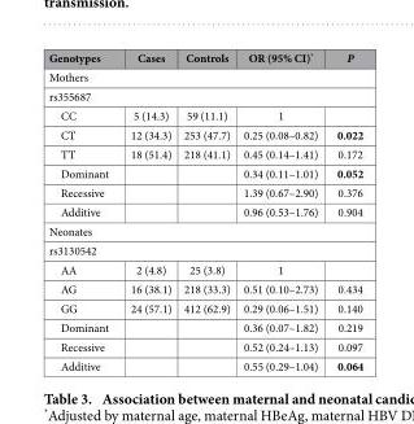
<table><thead><tr><td>Genotypes</td><td>Cases</td><td>Controls</td><td>OR (95% CI)*</td><td>P</td></tr></thead><tbody><tr><td colspan="5">Mothers</td></tr><tr><td colspan="5">rs355687</td></tr><tr><td>CC</td><td>5 (14.3)</td><td>59 (11.1)</td><td>1</td><td></td></tr><tr><td>CT</td><td>12 (34.3)</td><td>253 (47.7)</td><td>0.25 (0.08–0.82)</td><td>0.022</td></tr><tr><td>TT</td><td>18 (51.4)</td><td>218 (41.1)</td><td>0.45 (0.14–1.41)</td><td>0.172</td></tr><tr><td>Dominant</td><td></td><td></td><td>0.34 (0.11–1.01)</td><td>0.052</td></tr><tr><td>Recessive</td><td></td><td></td><td>1.39 (0.67–2.90)</td><td>0.376</td></tr><tr><td>Additive</td><td></td><td></td><td>0.96 (0.53–1.76)</td><td>0.904</td></tr><tr><td colspan="5">Neonates</td></tr><tr><td colspan="5">rs3130542</td></tr><tr><td>AA</td><td>2 (4.8)</td><td>25 (3.8)</td><td>1</td><td></td></tr><tr><td>AG</td><td>16 (38.1)</td><td>218 (33.3)</td><td>0.51 (0.10–2.73)</td><td>0.434</td></tr><tr><td>GG</td><td>24 (57.1)</td><td>412 (62.9)</td><td>0.29 (0.06–1.51)</td><td>0.140</td></tr><tr><td>Dominant</td><td></td><td></td><td>0.36 (0.07–1.82)</td><td>0.219</td></tr><tr><td>Recessive</td><td></td><td></td><td>0.52 (0.24–1.13)</td><td>0.097</td></tr><tr><td>Additive</td><td></td><td></td><td>0.55 (0.29–1.04)</td><td>0.064</td></tr></tbody></table>